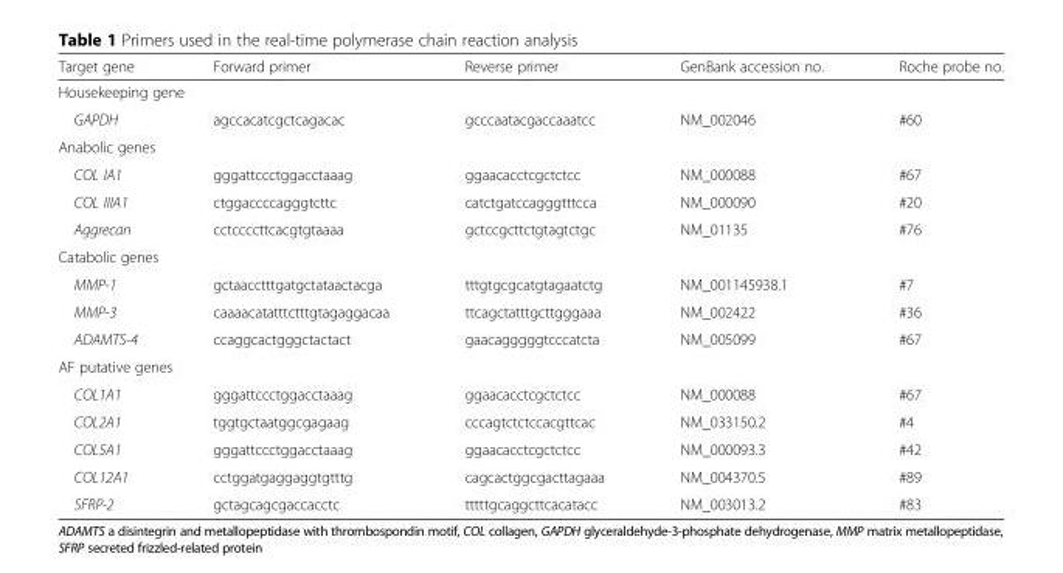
<table><thead><tr><td>Target gene</td><td>Forward primer</td><td>Reverse primer</td><td>GenBank accession no.</td><td>Roche probe no.</td></tr></thead><tbody><tr><td colspan="5">Housekeeping gene</td></tr><tr><td>GAPDH</td><td>agccacatcgctcagacac</td><td>gcccaatacgaccaaatcc</td><td>NM_002046</td><td>#60</td></tr><tr><td colspan="5">Anabolic genes</td></tr><tr><td>COL IA1</td><td>gggattccctggacctaaag</td><td>ggaacacctcgctctcc</td><td>NM_000088</td><td>#67</td></tr><tr><td>COL IIIA1</td><td>ctggaccccagggtcttc</td><td>catctgatccagggtttcca</td><td>NM_000090</td><td>#20</td></tr><tr><td>Aggrecan</td><td>cctccccttcacgtgtaaaa</td><td>gctccgcttctgtagtctgc</td><td>NM_01135</td><td>#76</td></tr><tr><td colspan="5">Catabolic genes</td></tr><tr><td>MMP-1</td><td>gctaacctttgatgctataactacga</td><td>tttgtgcgcatgtagaatctg</td><td>NM_001145938.1</td><td>#7</td></tr><tr><td>MMP-3</td><td>caaaacatatttctttgtagaggacaa</td><td>ttcagctatttgcttgggaaa</td><td>NM_002422</td><td>#36</td></tr><tr><td>ADAMTS-4</td><td>ccaggcactgggctactact</td><td>gaacagggggtcccatcta</td><td>NM_005099</td><td>#67</td></tr><tr><td colspan="5">AF putative genes</td></tr><tr><td>COL1A1</td><td>gggattccctggacctaaag</td><td>ggaacacctcgctctcc</td><td>NM_000088</td><td>#67</td></tr><tr><td>COL2A1</td><td>tggtgctaatggcgagaag</td><td>cccagtctctccacgttcac</td><td>NM_033150.2</td><td>#4</td></tr><tr><td>COL5A1</td><td>gggattccctggacctaaag</td><td>ggaacacctcgctctcc</td><td>NM_000093.3</td><td>#42</td></tr><tr><td>COL12A1</td><td>cctggatgaggaggtgtttg</td><td>cagcactggcgacttagaaa</td><td>NM_004370.5</td><td>#89</td></tr><tr><td>SFRP-2</td><td>gctagcagcgaccacctc</td><td>tttttgcaggcttcacatacc</td><td>NM_003013.2</td><td>#83</td></tr></tbody></table>